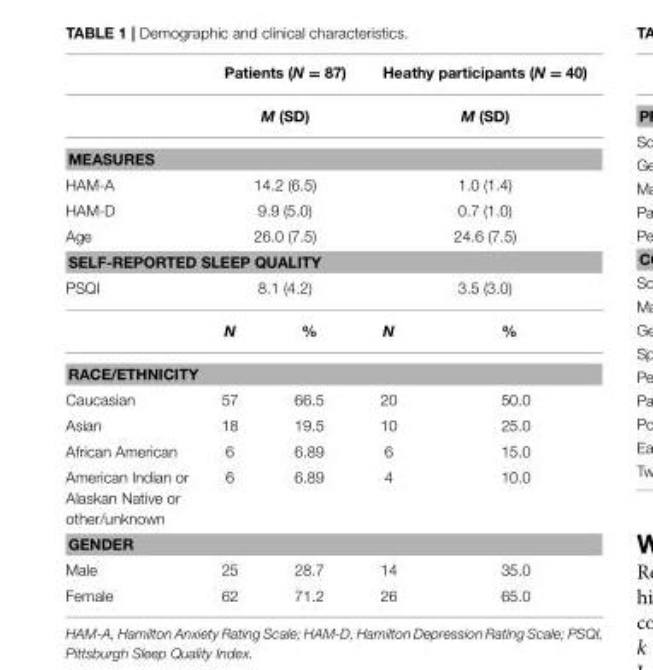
<table><thead><tr><td rowspan="2"></td><td rowspan="2" colspan="2">Patients (N = 87) M (SD)</td><td rowspan="2" colspan="2">Heathy participants (N = 40) M (SD)</td></tr><tr></tr></thead><tbody><tr><td colspan="5">MEASURES</td></tr><tr><td>HAM-A</td><td colspan="2">14.2 (6.5)</td><td colspan="2">1.0 (1.4)</td></tr><tr><td>HAM-D</td><td colspan="2">9.9 (5.0)</td><td colspan="2">0.7 (1.0)</td></tr><tr><td>Age</td><td colspan="2">26.0 (7.5)</td><td colspan="2">24.6 (7.5)</td></tr><tr><td colspan="5">SELF-REPORTED SLEEP QUALITY</td></tr><tr><td rowspan="2">PSQI</td><td colspan="2">8.1 (4.2)</td><td colspan="2">3.5 (3.0)</td></tr><tr><td>N</td><td>%</td><td>N</td><td>%</td></tr><tr><td colspan="5">RACE/ETHNICITY</td></tr><tr><td>Caucasian</td><td>57</td><td>66.5</td><td>20</td><td>50.0</td></tr><tr><td>Asian</td><td>18</td><td>19.5</td><td>10</td><td>25.0</td></tr><tr><td>African American</td><td>6</td><td>6.89</td><td>6</td><td>15.0</td></tr><tr><td>American Indian or Alaskan Native or other/unknown</td><td>6</td><td>6.89</td><td>4</td><td>10.0</td></tr><tr><td colspan="5">GENDER</td></tr><tr><td>Male</td><td>25</td><td>28.7</td><td>14</td><td>35.0</td></tr><tr><td>Female</td><td>62</td><td>71.2</td><td>26</td><td>65.0</td></tr></tbody></table>